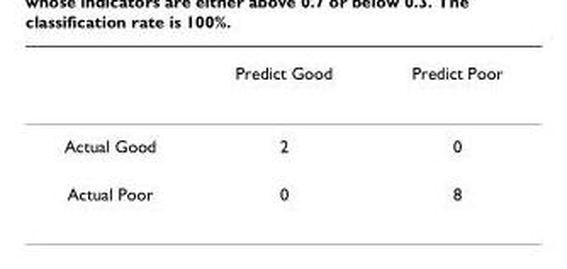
<table><thead><tr><td></td><td>Predict Good</td><td>Predict Poor</td></tr></thead><tbody><tr><td>Actual Good</td><td>2</td><td>0</td></tr><tr><td>Actual Poor</td><td>0</td><td>8</td></tr></tbody></table>